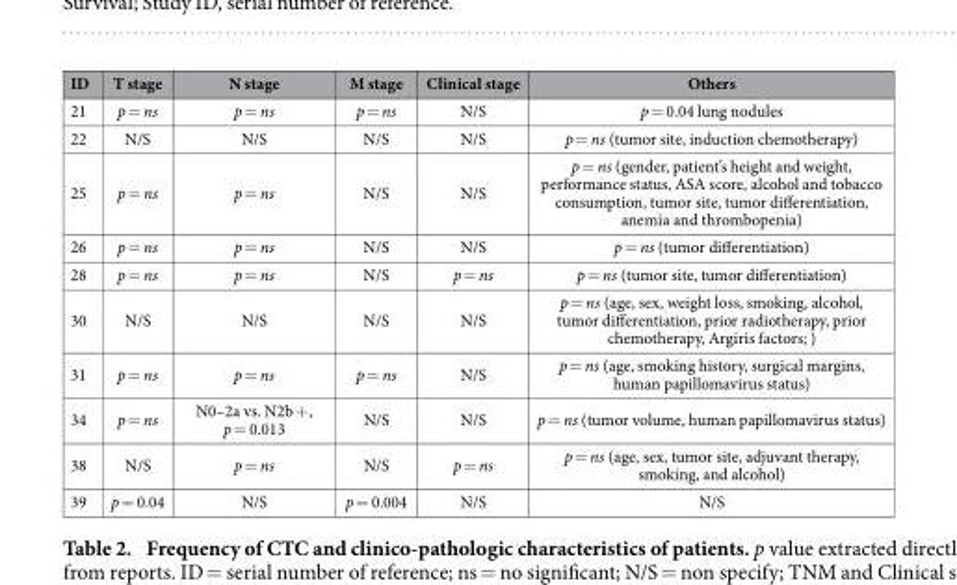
<table><thead><tr><td>ID</td><td>T stage</td><td>N stage</td><td>M stage</td><td>Clinical stage</td><td>Others</td></tr></thead><tbody><tr><td>21</td><td>p = ns</td><td>p = ns</td><td>p = ns</td><td>N/S</td><td>p = 0.04 lung nodules</td></tr><tr><td>22</td><td>N/S</td><td>N/S</td><td>N/S</td><td>N/S</td><td>p = ns (tumor site, induction chemotherapy)</td></tr><tr><td>25</td><td>p = ns</td><td>p = ns</td><td>N/S</td><td>N/S</td><td>p = ns (gender, patient’s height and weight, performance status, ASA score, alcohol and tobacco consumption, tumor site, tumor differentiation, anemia and thrombopenia)</td></tr><tr><td>26</td><td>p = ns</td><td>p = ns</td><td>N/S</td><td>N/S</td><td>p = ns (tumor differentiation)</td></tr><tr><td>28</td><td>p = ns</td><td>p = ns</td><td>N/S</td><td>p = ns</td><td>p = ns (tumor site, tumor differentiation)</td></tr><tr><td>30</td><td>N/S</td><td>N/S</td><td>N/S</td><td>N/S</td><td>p = ns (age, sex, weight loss, smoking, alcohol, tumor differentiation, prior radiotherapy, prior chemotherapy, Argiris factors; )</td></tr><tr><td>31</td><td>p = ns</td><td>p = ns</td><td>p = ns</td><td>N/S</td><td>p = ns (age, smoking history, surgical margins, human papillomavirus status)</td></tr><tr><td>34</td><td>p = ns</td><td>N0–2a vs. N2b + , p = 0.013</td><td>N/S</td><td>N/S</td><td>p = ns (tumor volume, human papillomavirus status)</td></tr><tr><td>38</td><td>N/S</td><td>p = ns</td><td>N/S</td><td>p = ns</td><td>p = ns (age, sex, tumor site, adjuvant therapy, smoking, and alcohol)</td></tr><tr><td>39</td><td>p = 0.04</td><td>N/S</td><td>p = 0.004</td><td>N/S</td><td>N/S</td></tr></tbody></table>